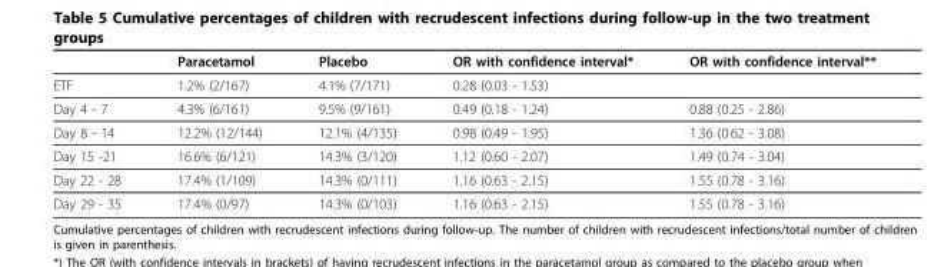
<table><thead><tr><td></td><td>Paracetamol</td><td>Placebo</td><td>OR with confidence interval*</td><td>OR with confidence interval**</td></tr></thead><tbody><tr><td>ETF</td><td>1.2% (2/167)</td><td>4.1% (7/171)</td><td>0.28 (0.03 - 1.53)</td><td></td></tr><tr><td>Day 4 - 7</td><td>4.3% (6/161)</td><td>9.5% (9/161)</td><td>0.49 (0.18 - 1.24)</td><td>0.88 (0.25 - 2.86)</td></tr><tr><td>Day 8 - 14</td><td>12.2% (12/144)</td><td>12.1% (4/135)</td><td>0.98 (0.49 - 1.95)</td><td>1.36 (0.62 - 3.08)</td></tr><tr><td>Day 15 -21</td><td>16.6% (6/121)</td><td>14.3% (3/120)</td><td>1.12 (0.60 - 2.07)</td><td>1.49 (0.74 - 3.04)</td></tr><tr><td>Day 22 - 28</td><td>17.4% (1/109)</td><td>14.3% (0/111)</td><td>1.16 (0.63 - 2.15)</td><td>1.55 (0.78 - 3.16)</td></tr><tr><td>Day 29 - 35</td><td>17.4% (0/97)</td><td>14.3% (0/103)</td><td>1.16 (0.63 - 2.15)</td><td>1.55 (0.78 - 3.16)</td></tr></tbody></table>